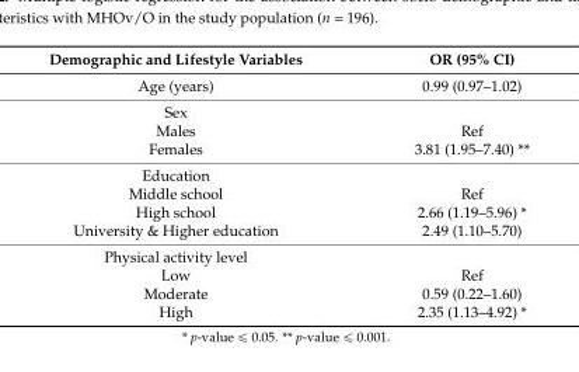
<table><thead><tr><td>Demographic and Lifestyle Variables</td><td>OR (95% CI)</td></tr></thead><tbody><tr><td>Age (years)</td><td>0.99 (0.97–1.02)</td></tr><tr><td colspan="2">Sex</td></tr><tr><td>Males</td><td>Ref</td></tr><tr><td>Females</td><td>3.81 (1.95–7.40) **</td></tr><tr><td colspan="2">Education</td></tr><tr><td>Middle school</td><td>Ref</td></tr><tr><td>High school</td><td>2.66 (1.19–5.96) *</td></tr><tr><td>University &amp; Higher education</td><td>2.49 (1.10–5.70)</td></tr><tr><td colspan="2">Physical activity level</td></tr><tr><td>Low</td><td>Ref</td></tr><tr><td>Moderate</td><td>0.59 (0.22–1.60)</td></tr><tr><td>High</td><td>2.35 (1.13–4.92) *</td></tr></tbody></table>